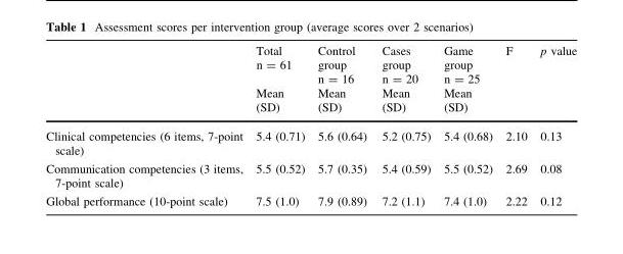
<table><thead><tr><td rowspan="2"></td><td rowspan="2">Total n = 61 Mean (SD)</td><td rowspan="2">Control group n = 16 Mean (SD)</td><td rowspan="2">Cases group n = 20 Mean (SD)</td><td rowspan="2">Game group n = 25 Mean (SD)</td><td rowspan="2">F</td><td rowspan="2">p value</td></tr><tr></tr></thead><tbody><tr><td>Clinical competencies (6 items, 7-point scale)</td><td>5.4 (0.71)</td><td>5.6 (0.64)</td><td>5.2 (0.75)</td><td>5.4 (0.68)</td><td>2.10</td><td>0.13</td></tr><tr><td>Communication competencies (3 items, 7-point scale)</td><td>5.5 (0.52)</td><td>5.7 (0.35)</td><td>5.4 (0.59)</td><td>5.5 (0.52)</td><td>2.69</td><td>0.08</td></tr><tr><td>Global performance (10-point scale)</td><td>7.5 (1.0)</td><td>7.9 (0.89)</td><td>7.2 (1.1)</td><td>7.4 (1.0)</td><td>2.22</td><td>0.12</td></tr></tbody></table>